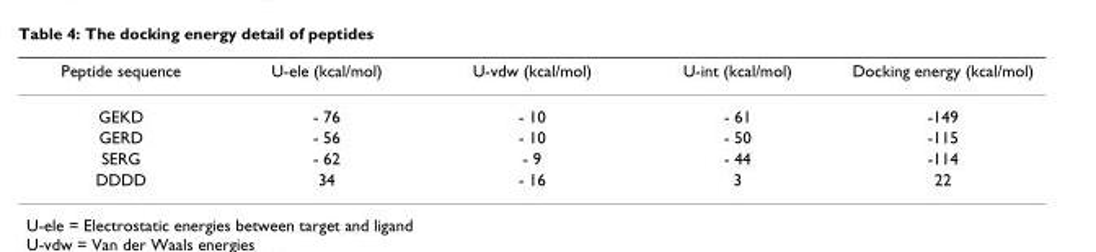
<table><thead><tr><td>Peptide sequence</td><td>U-ele (kcal/mol)</td><td>U-vdw (kcal/mol)</td><td>U-int (kcal/mol)</td><td>Docking energy (kcal/mol)</td></tr></thead><tbody><tr><td>GEKD</td><td>- 76</td><td>- 10</td><td>- 61</td><td>-149</td></tr><tr><td>GERD</td><td>- 56</td><td>- 10</td><td>- 50</td><td>-115</td></tr><tr><td>SERG</td><td>- 62</td><td>- 9</td><td>- 44</td><td>-114</td></tr><tr><td>DDDD</td><td>34</td><td>- 16</td><td>3</td><td>22</td></tr></tbody></table>